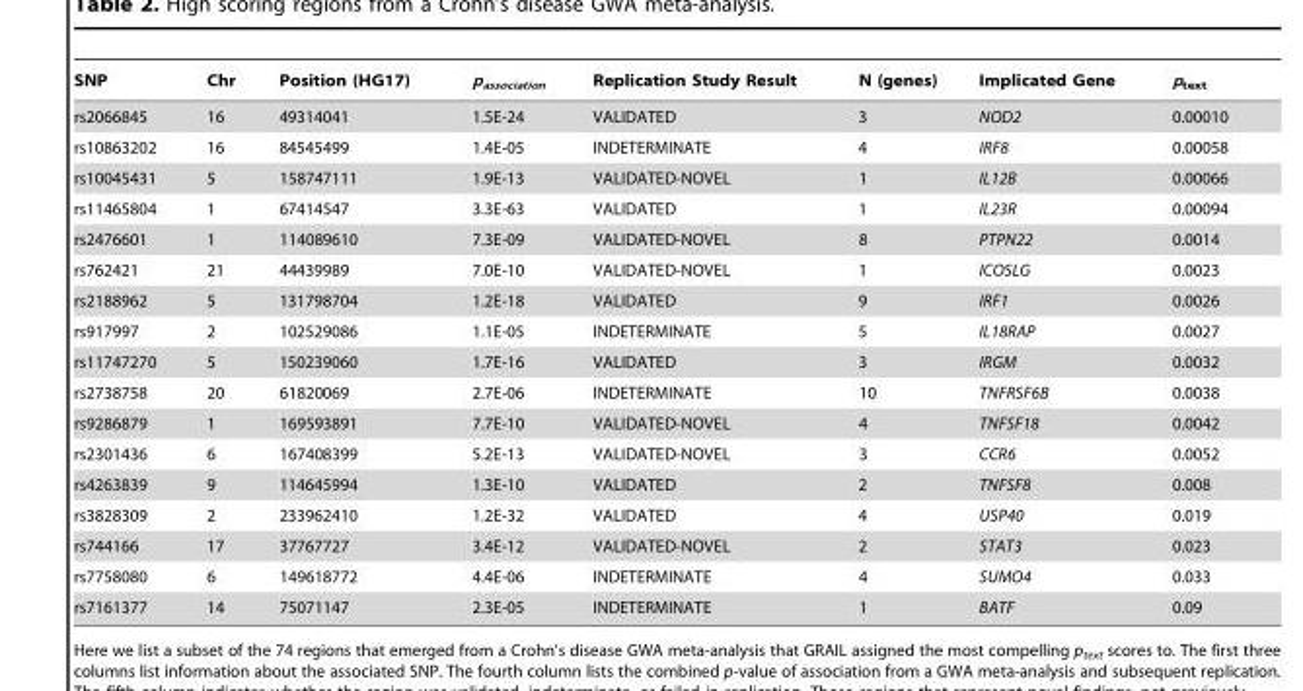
<table><thead><tr><td>SNP</td><td>Chr</td><td>Position (HG17)</td><td>p<sub>association</sub></td><td>Replication Study Result</td><td>N (genes)</td><td>Implicated Gene</td><td>p<sub>text</sub></td></tr></thead><tbody><tr><td>rs2066845</td><td>16</td><td>49314041</td><td>1.5E-24</td><td>VALIDATED</td><td>3</td><td>NOD2</td><td>0.00010</td></tr><tr><td>rs10863202</td><td>16</td><td>84545499</td><td>1.4E-05</td><td>INDETERMINATE</td><td>4</td><td>IRF8</td><td>0.00058</td></tr><tr><td>rs10045431</td><td>5</td><td>158747111</td><td>1.9E-13</td><td>VALIDATED-NOVEL</td><td>1</td><td>IL12B</td><td>0.00066</td></tr><tr><td>rs11465804</td><td>1</td><td>67414547</td><td>3.3E-63</td><td>VALIDATED</td><td>1</td><td>IL23R</td><td>0.00094</td></tr><tr><td>rs2476601</td><td>1</td><td>114089610</td><td>7.3E-09</td><td>VALIDATED-NOVEL</td><td>8</td><td>PTPN22</td><td>0.0014</td></tr><tr><td>rs762421</td><td>21</td><td>44439989</td><td>7.0E-10</td><td>VALIDATED-NOVEL</td><td>1</td><td>ICOSLG</td><td>0.0023</td></tr><tr><td>rs2188962</td><td>5</td><td>131798704</td><td>1.2E-18</td><td>VALIDATED</td><td>9</td><td>IRF1</td><td>0.0026</td></tr><tr><td>rs917997</td><td>2</td><td>102529086</td><td>1.1E-05</td><td>INDETERMINATE</td><td>5</td><td>IL18RAP</td><td>0.0027</td></tr><tr><td>rs11747270</td><td>5</td><td>150239060</td><td>1.7E-16</td><td>VALIDATED</td><td>3</td><td>IRGM</td><td>0.0032</td></tr><tr><td>rs2738758</td><td>20</td><td>61820069</td><td>2.7E-06</td><td>INDETERMINATE</td><td>10</td><td>TNFRSF6B</td><td>0.0038</td></tr><tr><td>rs9286879</td><td>1</td><td>169593891</td><td>7.7E-10</td><td>VALIDATED-NOVEL</td><td>4</td><td>TNFSF18</td><td>0.0042</td></tr><tr><td>rs2301436</td><td>6</td><td>167408399</td><td>5.2E-13</td><td>VALIDATED-NOVEL</td><td>3</td><td>CCR6</td><td>0.0052</td></tr><tr><td>rs4263839</td><td>9</td><td>114645994</td><td>1.3E-10</td><td>VALIDATED</td><td>2</td><td>TNFSF8</td><td>0.008</td></tr><tr><td>rs3828309</td><td>2</td><td>233962410</td><td>1.2E-32</td><td>VALIDATED</td><td>4</td><td>USP40</td><td>0.019</td></tr><tr><td>rs744166</td><td>17</td><td>37767727</td><td>3.4E-12</td><td>VALIDATED-NOVEL</td><td>2</td><td>STAT3</td><td>0.023</td></tr><tr><td>rs7758080</td><td>6</td><td>149618772</td><td>4.4E-06</td><td>INDETERMINATE</td><td>4</td><td>SUMO4</td><td>0.033</td></tr><tr><td>rs7161377</td><td>14</td><td>75071147</td><td>2.3E-05</td><td>INDETERMINATE</td><td>1</td><td>BATF</td><td>0.09</td></tr></tbody></table>